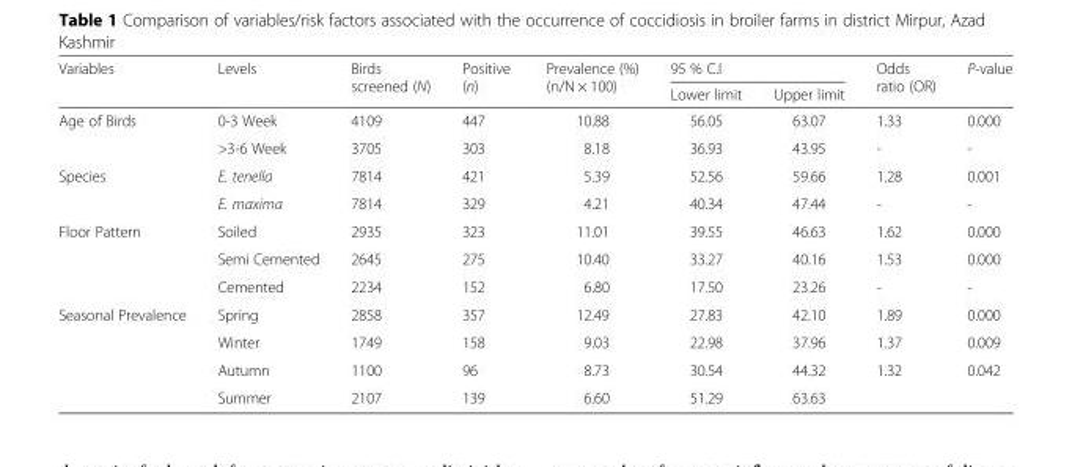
<table><thead><tr><td rowspan="2">Variables</td><td rowspan="2">Levels</td><td rowspan="2">Birds screened (N)</td><td rowspan="2">Positive (n)</td><td rowspan="2">Prevalence (%) (n/N × 100)</td><td colspan="2">95 % C.I</td><td rowspan="2">Odds ratio (OR)</td><td rowspan="2">P-value</td></tr><tr><td>Lower limit</td><td>Upper limit</td></tr></thead><tbody><tr><td rowspan="2">Age of Birds</td><td>0-3 Week</td><td>4109</td><td>447</td><td>10.88</td><td>56.05</td><td>63.07</td><td>1.33</td><td>0.000</td></tr><tr><td>&gt;3-6 Week</td><td>3705</td><td>303</td><td>8.18</td><td>36.93</td><td>43.95</td><td>-</td><td>-</td></tr><tr><td rowspan="2">Species</td><td>E. tenella</td><td>7814</td><td>421</td><td>5.39</td><td>52.56</td><td>59.66</td><td>1.28</td><td>0.001</td></tr><tr><td>E. maxima</td><td>7814</td><td>329</td><td>4.21</td><td>40.34</td><td>47.44</td><td>-</td><td>-</td></tr><tr><td rowspan="3">Floor Pattern</td><td>Soiled</td><td>2935</td><td>323</td><td>11.01</td><td>39.55</td><td>46.63</td><td>1.62</td><td>0.000</td></tr><tr><td>Semi Cemented</td><td>2645</td><td>275</td><td>10.40</td><td>33.27</td><td>40.16</td><td>1.53</td><td>0.000</td></tr><tr><td>Cemented</td><td>2234</td><td>152</td><td>6.80</td><td>17.50</td><td>23.26</td><td>-</td><td>-</td></tr><tr><td rowspan="4">Seasonal Prevalence</td><td>Spring</td><td>2858</td><td>357</td><td>12.49</td><td>27.83</td><td>42.10</td><td>1.89</td><td>0.000</td></tr><tr><td>Winter</td><td>1749</td><td>158</td><td>9.03</td><td>22.98</td><td>37.96</td><td>1.37</td><td>0.009</td></tr><tr><td>Autumn</td><td>1100</td><td>96</td><td>8.73</td><td>30.54</td><td>44.32</td><td>1.32</td><td>0.042</td></tr><tr><td>Summer</td><td>2107</td><td>139</td><td>6.60</td><td>51.29</td><td>63.63</td><td></td><td></td></tr></tbody></table>